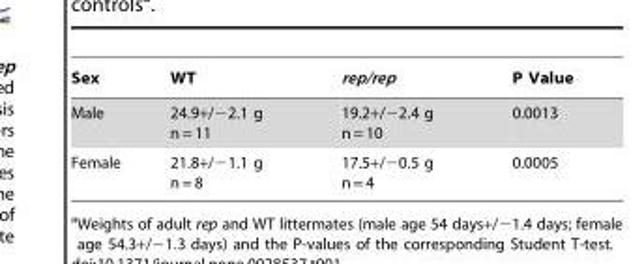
<table><thead><tr><td>Sex</td><td>WT</td><td>rep/rep</td><td>P Value</td></tr></thead><tbody><tr><td>Male</td><td>24.9+/−2.1 g n = 11</td><td>19.2+/−2.4 g n = 10</td><td>0.0013</td></tr><tr><td>Female</td><td>21.8+/−1.1 g n = 8</td><td>17.5+/−0.5 g n = 4</td><td>0.0005</td></tr></tbody></table>